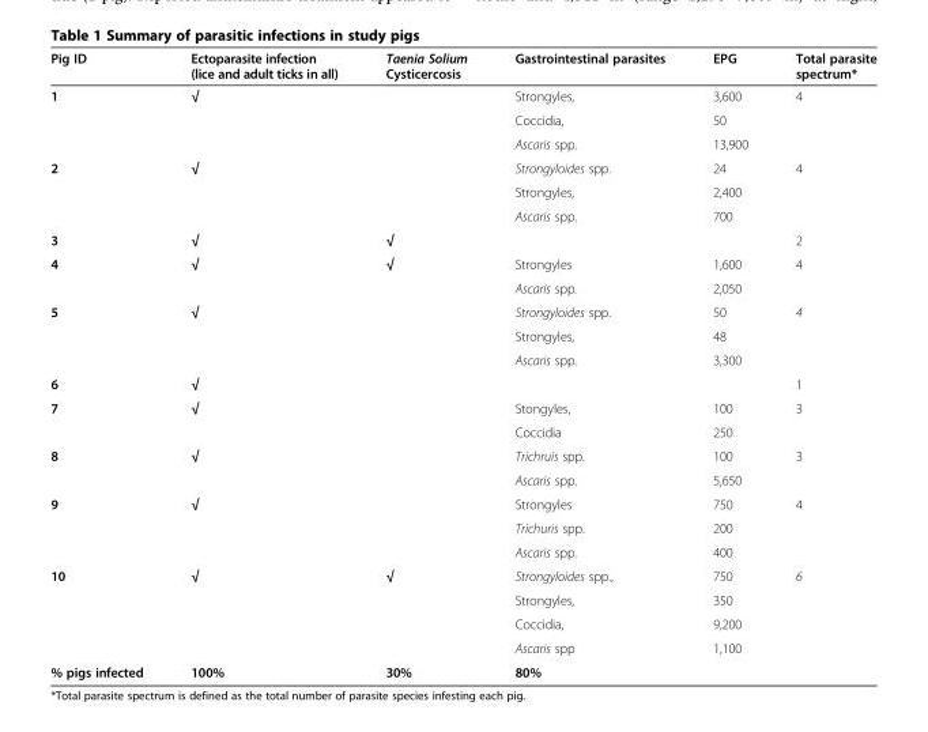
<table><thead><tr><td>Pig ID</td><td>Ectoparasite infection (lice and adult ticks in all)</td><td>Taenia Solium Cysticercosis</td><td>Gastrointestinal parasites</td><td>EPG</td><td>Total parasite spectrum*</td></tr></thead><tbody><tr><td rowspan="3">1</td><td rowspan="3">√</td><td rowspan="3"></td><td>Strongyles,</td><td>3,600</td><td rowspan="3">4</td></tr><tr><td>Coccidia,</td><td>50</td></tr><tr><td>Ascaris spp.</td><td>13,900</td></tr><tr><td rowspan="3">2</td><td rowspan="3">√</td><td rowspan="3"></td><td>Strongyloides spp.</td><td>24</td><td rowspan="3">4</td></tr><tr><td>Strongyles,</td><td>2,400</td></tr><tr><td>Ascaris spp.</td><td>700</td></tr><tr><td>3</td><td>√</td><td>√</td><td></td><td></td><td>2</td></tr><tr><td rowspan="2">4</td><td rowspan="2">√</td><td rowspan="2">√</td><td>Strongyles</td><td>1,600</td><td rowspan="2">4</td></tr><tr><td>Ascaris spp.</td><td>2,050</td></tr><tr><td rowspan="3">5</td><td rowspan="3">√</td><td rowspan="3"></td><td>Strongyloides spp.</td><td>50</td><td rowspan="3">4</td></tr><tr><td>Strongyles,</td><td>48</td></tr><tr><td>Ascaris spp.</td><td>3,300</td></tr><tr><td>6</td><td>√</td><td></td><td></td><td></td><td>1</td></tr><tr><td rowspan="2">7</td><td rowspan="2">√</td><td rowspan="2"></td><td>Stongyles,</td><td>100</td><td rowspan="2">3</td></tr><tr><td>Coccidia</td><td>250</td></tr><tr><td rowspan="2">8</td><td rowspan="2">√</td><td rowspan="2"></td><td>Trichruis spp.</td><td>100</td><td rowspan="2">3</td></tr><tr><td>Ascaris spp.</td><td>5,650</td></tr><tr><td rowspan="3">9</td><td rowspan="3">√</td><td rowspan="3"></td><td>Strongyles</td><td>750</td><td rowspan="3">4</td></tr><tr><td>Trichuris spp.</td><td>200</td></tr><tr><td>Ascaris spp.</td><td>400</td></tr><tr><td rowspan="4">10</td><td rowspan="4">√</td><td rowspan="4">√</td><td>Strongyloides spp.,</td><td>750</td><td rowspan="4">6</td></tr><tr><td>Strongyles,</td><td>350</td></tr><tr><td>Coccidia,</td><td>9,200</td></tr><tr><td>Ascaris spp</td><td>1,100</td></tr><tr><td>% pigs infected</td><td>100%</td><td>30%</td><td>80%</td><td></td><td></td></tr></tbody></table>